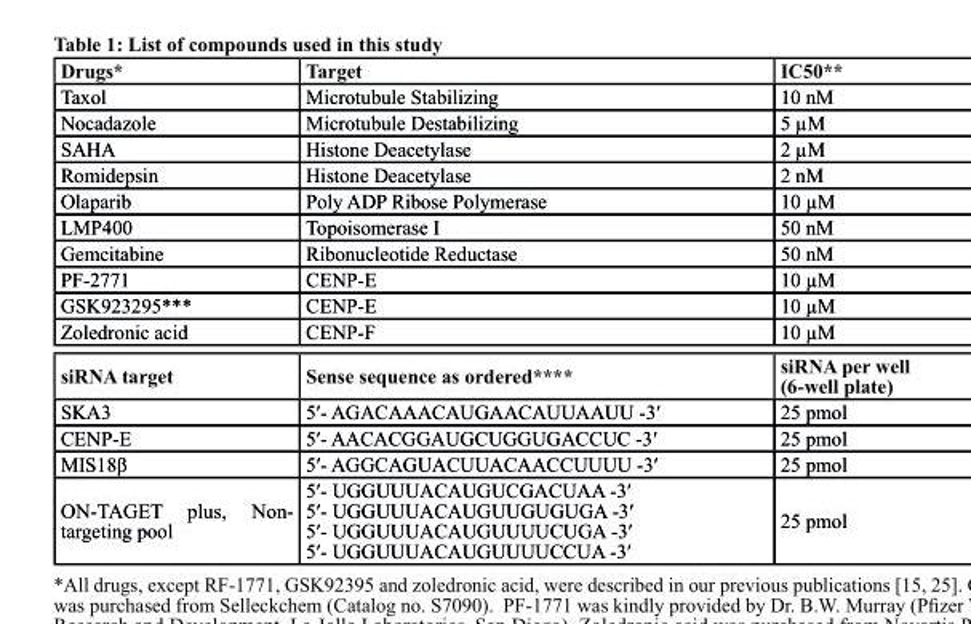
<table><thead><tr><td>Drugs*</td><td>target</td><td>Ic50**</td></tr></thead><tbody><tr><td>Taxol</td><td>Microtubule Stabilizing</td><td>10 nM</td></tr><tr><td>Nocadazole</td><td>Microtubule Destabilizing</td><td>5 µM</td></tr><tr><td>SAHA</td><td>Histone Deacetylase</td><td>2 µM</td></tr><tr><td>Romidepsin</td><td>Histone Deacetylase</td><td>2 nM</td></tr><tr><td>Olaparib</td><td>Poly ADP Ribose Polymerase</td><td>10 µM</td></tr><tr><td>LMP400</td><td>Topoisomerase I</td><td>50 nM</td></tr><tr><td>Gemcitabine</td><td>Ribonucleotide Reductase</td><td>50 nM</td></tr><tr><td>PF-2771</td><td>CENP-E</td><td>10 µM</td></tr><tr><td>GSK923295***</td><td>CENP-E</td><td>10 µM</td></tr><tr><td>Zoledronic acid</td><td>CENP-F</td><td>10 µM</td></tr><tr><td>sirNA target</td><td>sense sequence as ordered****</td><td>sirNA per well (6-well plate)</td></tr><tr><td>SKA3</td><td>5′- AGACAAACAUGAACAUUAAUU -3′</td><td>25 pmol</td></tr><tr><td>CENP-E</td><td>5′- AACACGGAUGCUGGUGACCUC -3′</td><td>25 pmol</td></tr><tr><td>MIS18β</td><td>5′- AGGCAGUACUUACAACCUUUU -3′</td><td>25 pmol</td></tr><tr><td>ON-TAGET plus, Non- targeting pool</td><td>5′- UGGUUUACAUGUCGACUAA -3′ 5′- UGGUUUACAUGUUGUGUGA -3′ 5′- UGGUUUACAUGUUUUCUGA -3′ 5′- UGGUUUACAUGUUUUCCUA -3′</td><td>25 pmol</td></tr></tbody></table>